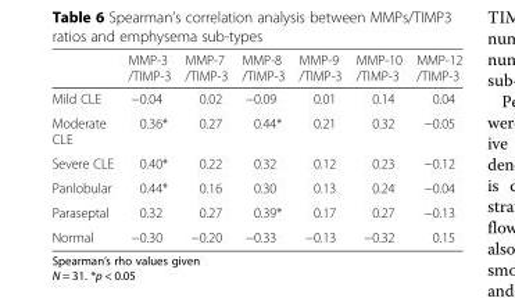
<table><thead><tr><td></td><td>MMP-3 /TIMP-3</td><td>MMP-7 /TIMP-3</td><td>MMP-8 /TIMP-3</td><td>MMP-9 /TIMP-3</td><td>MMP-10 /TIMP-3</td><td>MMP-12 /TIMP-3</td></tr></thead><tbody><tr><td>Mild CLE</td><td>−0.04</td><td>0.02</td><td>−0.09</td><td>0.01</td><td>0.14</td><td>0.04</td></tr><tr><td>Moderate CLE</td><td>0.36*</td><td>0.27</td><td>0.44*</td><td>0.21</td><td>0.32</td><td>−0.05</td></tr><tr><td>Severe CLE</td><td>0.40*</td><td>0.22</td><td>0.32</td><td>0.12</td><td>0.23</td><td>−0.12</td></tr><tr><td>Panlobular</td><td>0.44*</td><td>0.16</td><td>0.30</td><td>0.13</td><td>0.24</td><td>−0.04</td></tr><tr><td>Paraseptal</td><td>0.32</td><td>0.27</td><td>0.39*</td><td>0.17</td><td>0.27</td><td>−0.13</td></tr><tr><td>Normal</td><td>−0.30</td><td>−0.20</td><td>−0.33</td><td>−0.13</td><td>−0.32</td><td>0.15</td></tr></tbody></table>